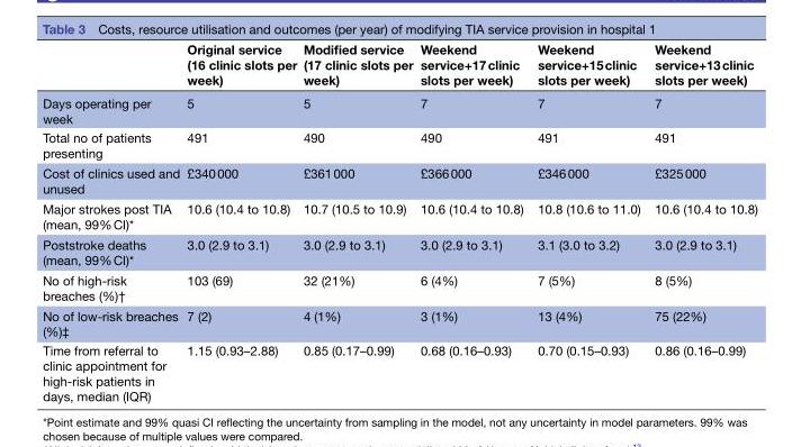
<table><thead><tr><td></td><td>Original service (16 clinic slots per week)</td><td>Modified service (17 clinic slots per week)</td><td>Weekend service+17 clinic slots per week)</td><td>Weekend service+15 clinic slots per week)</td><td>Weekend service+13 clinic slots per week)</td></tr></thead><tbody><tr><td>Days operating per week</td><td>5</td><td>5</td><td>7</td><td>7</td><td>7</td></tr><tr><td>Total no of patients presenting</td><td>491</td><td>490</td><td>490</td><td>491</td><td>491</td></tr><tr><td>Cost of clinics used and unused</td><td>£340 000</td><td>£361 000</td><td>£366 000</td><td>£346 000</td><td>£325 000</td></tr><tr><td>Major strokes post TIA (mean, 99% CI)*</td><td>10.6 (10.4 to 10.8)</td><td>10.7 (10.5 to 10.9)</td><td>10.6 (10.4 to 10.8)</td><td>10.8 (10.6 to 11.0)</td><td>10.6 (10.4 to 10.8)</td></tr><tr><td>Poststroke deaths (mean, 99% CI)*</td><td>3.0 (2.9 to 3.1)</td><td>3.0 (2.9 to 3.1)</td><td>3.0 (2.9 to 3.1)</td><td>3.1 (3.0 to 3.2)</td><td>3.0 (2.9 to 3.1)</td></tr><tr><td>No of high-risk breaches (%)†</td><td>103 (69)</td><td>32 (21%)</td><td>6 (4%)</td><td>7 (5%)</td><td>8 (5%)</td></tr><tr><td>No of low-risk breaches (%)‡</td><td>7 (2)</td><td>4 (1%)</td><td>3 (1%)</td><td>13 (4%)</td><td>75 (22%)</td></tr><tr><td>Time from referral to clinic appointment for high-risk patients in days, median (IQR)</td><td>1.15 (0.93–2.88)</td><td>0.85 (0.17–0.99)</td><td>0.68 (0.16–0.93)</td><td>0.70 (0.15–0.93)</td><td>0.86 (0.16–0.99)</td></tr></tbody></table>